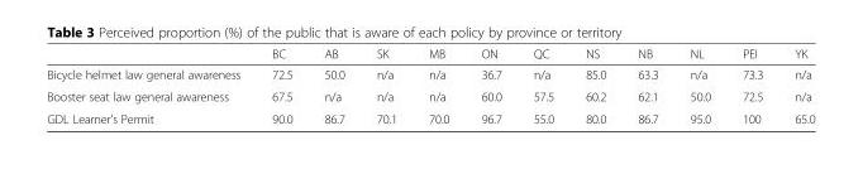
<table><thead><tr><td></td><td>BC</td><td>AB</td><td>SK</td><td>MB</td><td>ON</td><td>QC</td><td>NS</td><td>NB</td><td>NL</td><td>PEI</td><td>YK</td></tr></thead><tbody><tr><td>Bicycle helmet law general awareness</td><td>72.5</td><td>50.0</td><td>n/a</td><td>n/a</td><td>36.7</td><td>n/a</td><td>85.0</td><td>63.3</td><td>n/a</td><td>73.3</td><td>n/a</td></tr><tr><td>Booster seat law general awareness</td><td>67.5</td><td>n/a</td><td>n/a</td><td>n/a</td><td>60.0</td><td>57.5</td><td>60.2</td><td>62.1</td><td>50.0</td><td>72.5</td><td>n/a</td></tr><tr><td>GDL Learner’s Permit</td><td>90.0</td><td>86.7</td><td>70.1</td><td>70.0</td><td>96.7</td><td>55.0</td><td>80.0</td><td>86.7</td><td>95.0</td><td>100</td><td>65.0</td></tr></tbody></table>